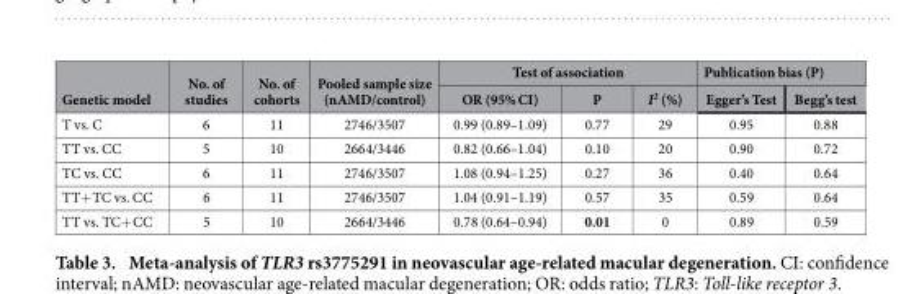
<table><thead><tr><td rowspan="2">Genetic model</td><td rowspan="2">No. of studies</td><td rowspan="2">No. of cohorts</td><td rowspan="2">Pooled sample size (nAMD/control)</td><td colspan="3">Test of association</td><td colspan="2">Publication bias (P)</td></tr><tr><td>OR (95% CI)</td><td>P</td><td>I<sup>2</sup> (%)</td><td>Egger’s Test</td><td>Begg’s test</td></tr></thead><tbody><tr><td>T vs. C</td><td>6</td><td>11</td><td>2746/3507</td><td>0.99 (0.89–1.09)</td><td>0.77</td><td>29</td><td>0.95</td><td>0.88</td></tr><tr><td>TT vs. CC</td><td>5</td><td>10</td><td>2664/3446</td><td>0.82 (0.66–1.04)</td><td>0.10</td><td>20</td><td>0.90</td><td>0.72</td></tr><tr><td>TC vs. CC</td><td>6</td><td>11</td><td>2746/3507</td><td>1.08 (0.94–1.25)</td><td>0.27</td><td>36</td><td>0.40</td><td>0.64</td></tr><tr><td>TT+ TC vs. CC</td><td>6</td><td>11</td><td>2746/3507</td><td>1.04 (0.91–1.19)</td><td>0.57</td><td>35</td><td>0.59</td><td>0.64</td></tr><tr><td>TT vs. TC+ CC</td><td>5</td><td>10</td><td>2664/3446</td><td>0.78 (0.64–0.94)</td><td>0.01</td><td>0</td><td>0.89</td><td>0.59</td></tr></tbody></table>